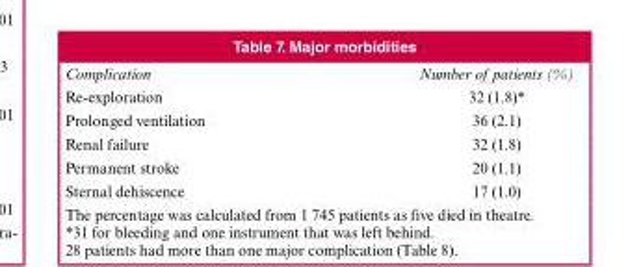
<table><thead><tr><td>Complication</td><td>Number of patients (%)</td></tr></thead><tbody><tr><td>Re-exploration</td><td>32 (1.8)*</td></tr><tr><td>Prolonged ventilation</td><td>36 (2.1)</td></tr><tr><td>Renal failure</td><td>32 (1.8)</td></tr><tr><td>Permanent stroke</td><td>20 (1.1)</td></tr><tr><td>Sternal dehiscence</td><td>17 (1.0)</td></tr></tbody></table>